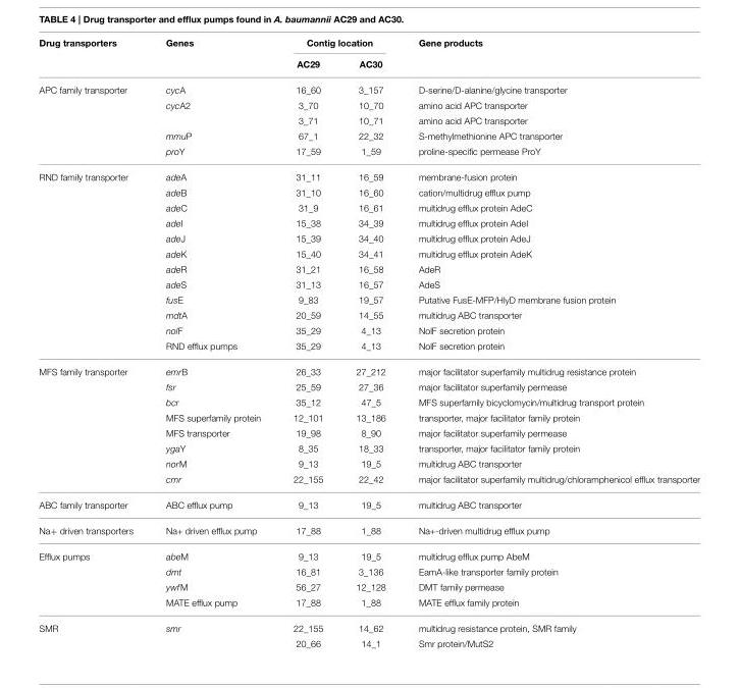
<table><thead><tr><td rowspan="2">Drug transporters</td><td rowspan="2">Genes</td><td colspan="2">Contig location</td><td rowspan="2">Gene products</td></tr><tr><td>AC29</td><td>AC30</td></tr></thead><tbody><tr><td rowspan="5">APC family transporter</td><td>cycA</td><td>16_60</td><td>3_157</td><td>D-serine/D-alanine/glycine transporter</td></tr><tr><td>cycA2</td><td>3_70</td><td>10_70</td><td>amino acid APC transporter</td></tr><tr><td></td><td>3_71</td><td>10_71</td><td>amino acid APC transporter</td></tr><tr><td>mmuP</td><td>67_1</td><td>22_32</td><td>S-methylmethionine APC transporter</td></tr><tr><td>proY</td><td>17_59</td><td>1_59</td><td>proline-specific permease ProY</td></tr><tr><td rowspan="12">RND family transporter</td><td>adeA</td><td>31_11</td><td>16_59</td><td>membrane-fusion protein</td></tr><tr><td>adeB</td><td>31_10</td><td>16_60</td><td>cation/multidrug efflux pump</td></tr><tr><td>adeC</td><td>31_9</td><td>16_61</td><td>multidrug efflux protein AdeC</td></tr><tr><td>adeI</td><td>15_38</td><td>34_39</td><td>multidrug efflux protein AdeI</td></tr><tr><td>adeJ</td><td>15_39</td><td>34_40</td><td>multidrug efflux protein AdeJ</td></tr><tr><td>adeK</td><td>15_40</td><td>34_41</td><td>multidrug efflux protein AdeK</td></tr><tr><td>adeR</td><td>31_21</td><td>16_58</td><td>AdeR</td></tr><tr><td>adeS</td><td>31_13</td><td>16_57</td><td>AdeS</td></tr><tr><td>fusE</td><td>9_83</td><td>19_57</td><td>Putative FusE-MFP/HlyD membrane fusion protein</td></tr><tr><td>mdtA</td><td>20_59</td><td>14_55</td><td>multidrug ABC transporter</td></tr><tr><td>nolF</td><td>35_29</td><td>4_13</td><td>NolF secretion protein</td></tr><tr><td>RND efflux pumps</td><td>35_29</td><td>4_13</td><td>NolF secretion protein</td></tr><tr><td rowspan="8">MFS family transporter</td><td>emrB</td><td>26_33</td><td>27_212</td><td>major facilitator superfamily multidrug resistance protein</td></tr><tr><td>fsr</td><td>25_59</td><td>27_36</td><td>major facilitator superfamily permease</td></tr><tr><td>bcr</td><td>35_12</td><td>47_5</td><td>MFS superfamily bicyclomycin/multidrug transport protein</td></tr><tr><td>MFS superfamily protein</td><td>12_101</td><td>13_186</td><td>transporter, major facilitator family protein</td></tr><tr><td>MFS transporter</td><td>19_98</td><td>8_90</td><td>major facilitator superfamily permease</td></tr><tr><td>ygaY</td><td>8_35</td><td>18_33</td><td>transporter, major facilitator family protein</td></tr><tr><td>norM</td><td>9_13</td><td>19_5</td><td>multidrug ABC transporter</td></tr><tr><td>cmr</td><td>22_155</td><td>22_42</td><td>major facilitator superfamily multidrug/chloramphenicol efflux transporter</td></tr><tr><td>ABC family transporter</td><td>ABC efflux pump</td><td>9_13</td><td>19_5</td><td>multidrug ABC transporter</td></tr><tr><td>Na+ driven transporters</td><td>Na+ driven efflux pump</td><td>17_88</td><td>1_88</td><td>Na+-driven multidrug efflux pump</td></tr><tr><td rowspan="4">Efflux pumps</td><td>abeM</td><td>9_13</td><td>19_5</td><td>multidrug efflux pump AbeM</td></tr><tr><td>dmt</td><td>16_81</td><td>3_136</td><td>EamA-like transporter family protein</td></tr><tr><td>ywfM</td><td>56_27</td><td>12_128</td><td>DMT family permease</td></tr><tr><td>MATE efflux pump</td><td>17_88</td><td>1_88</td><td>MATE efflux family protein</td></tr><tr><td rowspan="2">SMR</td><td>smr</td><td>22_155</td><td>14_62</td><td>multidrug resistance protein, SMR family</td></tr><tr><td></td><td>20_66</td><td>14_1</td><td>Smr protein/MutS2</td></tr></tbody></table>